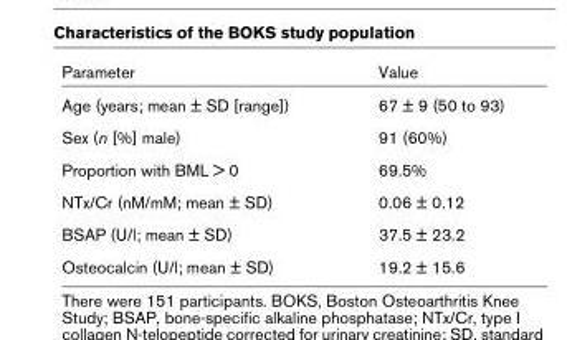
<table><thead><tr><td>Parameter</td><td>Value</td></tr></thead><tbody><tr><td>Age (years; mean ± SD [range])</td><td>67 ± 9 (50 to 93)</td></tr><tr><td>Sex (n [%] male)</td><td>91 (60%)</td></tr><tr><td>Proportion with BML &gt; 0</td><td>69.5%</td></tr><tr><td>NTx/Cr (nM/mM; mean ± SD)</td><td>0.06 ± 0.12</td></tr><tr><td>BSAP (U/l; mean ± SD)</td><td>37.5 ± 23.2</td></tr><tr><td>Osteocalcin (U/l; mean ± SD)</td><td>19.2 ± 15.6</td></tr></tbody></table>